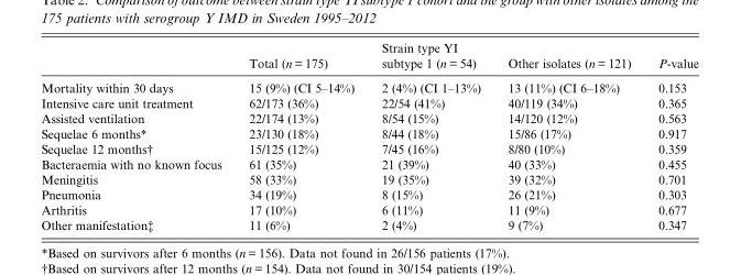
<table><thead><tr><td></td><td>Total (n = 175)</td><td>Strain type YI subtype 1 (n = 54)</td><td>Other isolates (n = 121)</td><td>P-value</td></tr></thead><tbody><tr><td>Mortality within 30 days</td><td>15 (9%) (CI 5–14%)</td><td>2 (4%) (CI 1–13%)</td><td>13 (11%) (CI 6–18%)</td><td>0.153</td></tr><tr><td>Intensive care unit treatment</td><td>62/173 (36%)</td><td>22/54 (41%)</td><td>40/119 (34%)</td><td>0.365</td></tr><tr><td>Assisted ventilation</td><td>22/174 (13%)</td><td>8/54 (15%)</td><td>14/120 (12%)</td><td>0.563</td></tr><tr><td>Sequelae 6 months*</td><td>23/130 (18%)</td><td>8/44 (18%)</td><td>15/86 (17%)</td><td>0.917</td></tr><tr><td>Sequelae 12 months†</td><td>15/125 (12%)</td><td>7/45 (16%)</td><td>8/80 (10%)</td><td>0.359</td></tr><tr><td>Bacteraemia with no known focus</td><td>61 (35%)</td><td>21 (39%)</td><td>40 (33%)</td><td>0.455</td></tr><tr><td>Meningitis</td><td>58 (33%)</td><td>19 (35%)</td><td>39 (32%)</td><td>0.701</td></tr><tr><td>Pneumonia</td><td>34 (19%)</td><td>8 (15%)</td><td>26 (21%)</td><td>0.303</td></tr><tr><td>Arthritis</td><td>17 (10%)</td><td>6 (11%)</td><td>11 (9%)</td><td>0.677</td></tr><tr><td>Other manifestation‡</td><td>11 (6%)</td><td>2 (4%)</td><td>9 (7%)</td><td>0.347</td></tr></tbody></table>